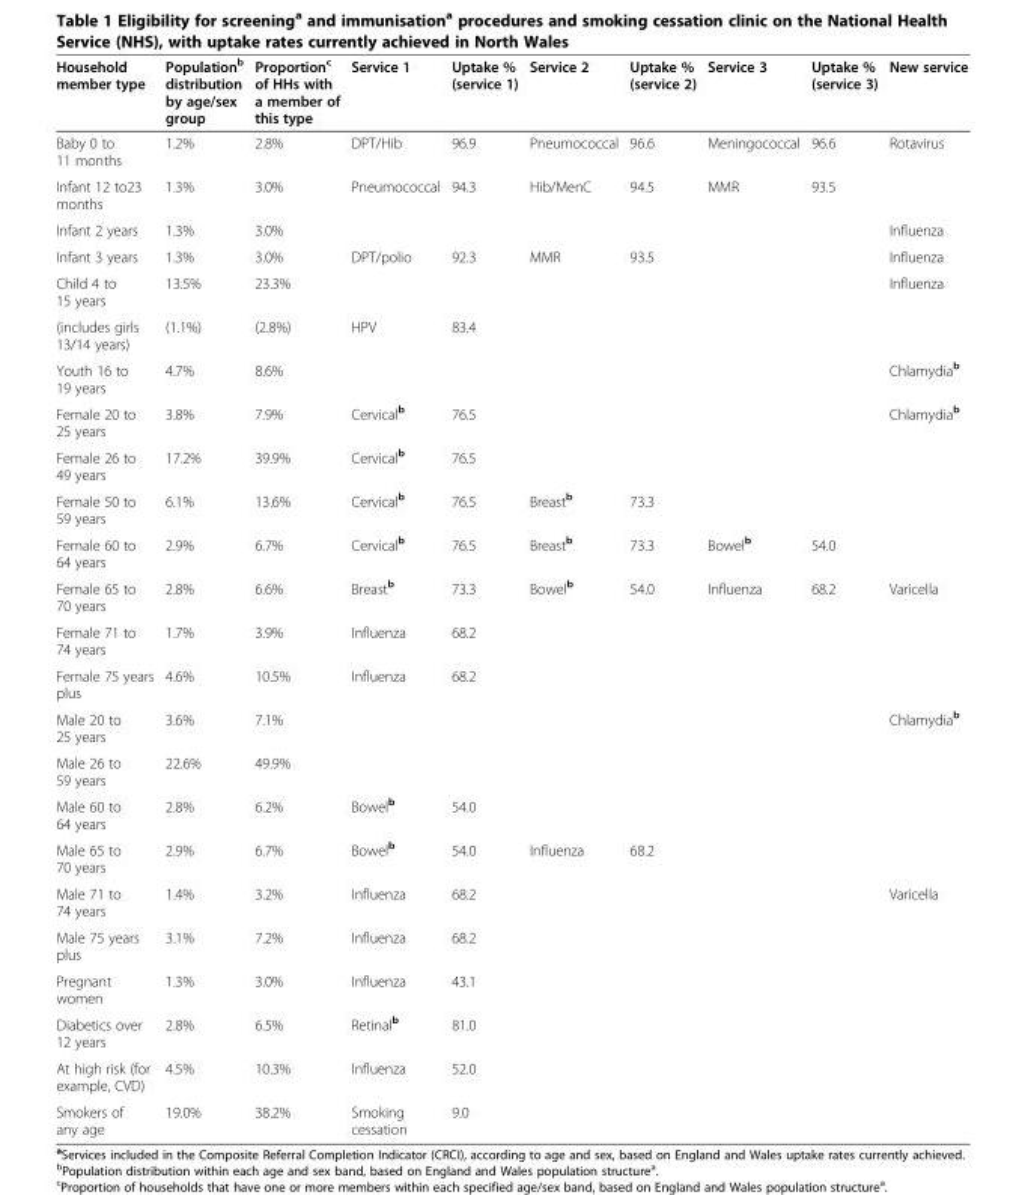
<table><thead><tr><td>Household member type</td><td>Population<sup>b</sup> distribution by age/sex group</td><td>Proportion<sup>c</sup> of HHs with a member of this type</td><td>Service 1</td><td>Uptake % (service 1)</td><td>Service 2</td><td>Uptake % (service 2)</td><td>Service 3</td><td>Uptake % (service 3)</td><td>New service</td></tr></thead><tbody><tr><td>Baby 0 to 11 months</td><td>1.2%</td><td>2.8%</td><td>DPT/Hib</td><td>96.9</td><td>Pneumococcal</td><td>96.6</td><td>Meningococcal</td><td>96.6</td><td>Rotavirus</td></tr><tr><td>Infant 12 to23 months</td><td>1.3%</td><td>3.0%</td><td>Pneumococcal</td><td>94.3</td><td>Hib/MenC</td><td>94.5</td><td>MMR</td><td>93.5</td><td></td></tr><tr><td>Infant 2 years</td><td>1.3%</td><td>3.0%</td><td></td><td></td><td></td><td></td><td></td><td></td><td>Influenza</td></tr><tr><td>Infant 3 years</td><td>1.3%</td><td>3.0%</td><td>DPT/polio</td><td>92.3</td><td>MMR</td><td>93.5</td><td></td><td></td><td>Influenza</td></tr><tr><td>Child 4 to 15 years</td><td>13.5%</td><td>23.3%</td><td></td><td></td><td></td><td></td><td></td><td></td><td>Influenza</td></tr><tr><td>(includes girls 13/14 years)</td><td>(1.1%)</td><td>(2.8%)</td><td>HPV</td><td>83.4</td><td></td><td></td><td></td><td></td><td></td></tr><tr><td>Youth 16 to 19 years</td><td>4.7%</td><td>8.6%</td><td></td><td></td><td></td><td></td><td></td><td></td><td>Chlamydia<sup>b</sup></td></tr><tr><td>Female 20 to 25 years</td><td>3.8%</td><td>7.9%</td><td>Cervical<sup>b</sup></td><td>76.5</td><td></td><td></td><td></td><td></td><td>Chlamydia<sup>b</sup></td></tr><tr><td>Female 26 to 49 years</td><td>17.2%</td><td>39.9%</td><td>Cervical<sup>b</sup></td><td>76.5</td><td></td><td></td><td></td><td></td><td></td></tr><tr><td>Female 50 to 59 years</td><td>6.1%</td><td>13.6%</td><td>Cervical<sup>b</sup></td><td>76.5</td><td>Breast<sup>b</sup></td><td>73.3</td><td></td><td></td><td></td></tr><tr><td>Female 60 to 64 years</td><td>2.9%</td><td>6.7%</td><td>Cervical<sup>b</sup></td><td>76.5</td><td>Breast<sup>b</sup></td><td>73.3</td><td>Bowel<sup>b</sup></td><td>54.0</td><td></td></tr><tr><td>Female 65 to 70 years</td><td>2.8%</td><td>6.6%</td><td>Breast<sup>b</sup></td><td>73.3</td><td>Bowel<sup>b</sup></td><td>54.0</td><td>Influenza</td><td>68.2</td><td>Varicella</td></tr><tr><td>Female 71 to 74 years</td><td>1.7%</td><td>3.9%</td><td>Influenza</td><td>68.2</td><td></td><td></td><td></td><td></td><td></td></tr><tr><td>Female 75 years plus</td><td>4.6%</td><td>10.5%</td><td>Influenza</td><td>68.2</td><td></td><td></td><td></td><td></td><td></td></tr><tr><td>Male 20 to 25 years</td><td>3.6%</td><td>7.1%</td><td></td><td></td><td></td><td></td><td></td><td></td><td>Chlamydia<sup>b</sup></td></tr><tr><td>Male 26 to 59 years</td><td>22.6%</td><td>49.9%</td><td></td><td></td><td></td><td></td><td></td><td></td><td></td></tr><tr><td>Male 60 to 64 years</td><td>2.8%</td><td>6.2%</td><td>Bowel<sup>b</sup></td><td>54.0</td><td></td><td></td><td></td><td></td><td></td></tr><tr><td>Male 65 to 70 years</td><td>2.9%</td><td>6.7%</td><td>Bowel<sup>b</sup></td><td>54.0</td><td>Influenza</td><td>68.2</td><td></td><td></td><td></td></tr><tr><td>Male 71 to 74 years</td><td>1.4%</td><td>3.2%</td><td>Influenza</td><td>68.2</td><td></td><td></td><td></td><td></td><td>Varicella</td></tr><tr><td>Male 75 years plus</td><td>3.1%</td><td>7.2%</td><td>Influenza</td><td>68.2</td><td></td><td></td><td></td><td></td><td></td></tr><tr><td>Pregnant women</td><td>1.3%</td><td>3.0%</td><td>Influenza</td><td>43.1</td><td></td><td></td><td></td><td></td><td></td></tr><tr><td>Diabetics over 12 years</td><td>2.8%</td><td>6.5%</td><td>Retinal<sup>b</sup></td><td>81.0</td><td></td><td></td><td></td><td></td><td></td></tr><tr><td>At high risk (for example, CVD)</td><td>4.5%</td><td>10.3%</td><td>Influenza</td><td>52.0</td><td></td><td></td><td></td><td></td><td></td></tr><tr><td>Smokers of any age</td><td>19.0%</td><td>38.2%</td><td>Smoking cessation</td><td>9.0</td><td></td><td></td><td></td><td></td><td></td></tr></tbody></table>